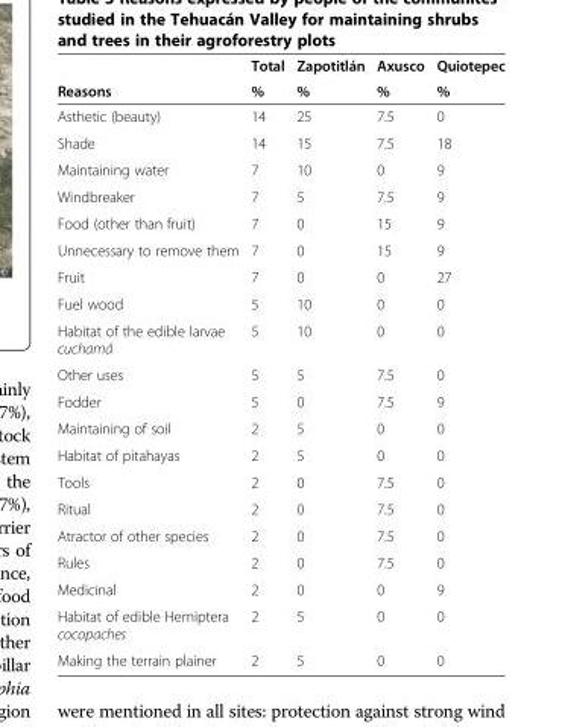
<table><thead><tr><td rowspan="2">Reasons</td><td rowspan="2">Total %</td><td rowspan="2">Zapotitlán %</td><td rowspan="2">Axusco %</td><td rowspan="2">Quiotepec %</td></tr><tr></tr></thead><tbody><tr><td>Asthetic (beauty)</td><td>14</td><td>25</td><td>7.5</td><td>0</td></tr><tr><td>Shade</td><td>14</td><td>15</td><td>7.5</td><td>18</td></tr><tr><td>Maintaining water</td><td>7</td><td>10</td><td>0</td><td>9</td></tr><tr><td>Windbreaker</td><td>7</td><td>5</td><td>7.5</td><td>9</td></tr><tr><td>Food (other than fruit)</td><td>7</td><td>0</td><td>15</td><td>9</td></tr><tr><td>Unnecessary to remove them</td><td>7</td><td>0</td><td>15</td><td>9</td></tr><tr><td>Fruit</td><td>7</td><td>0</td><td>0</td><td>27</td></tr><tr><td>Fuel wood</td><td>5</td><td>10</td><td>0</td><td>0</td></tr><tr><td>Habitat of the edible larvae cuchamá</td><td>5</td><td>10</td><td>0</td><td>0</td></tr><tr><td>Other uses</td><td>5</td><td>5</td><td>7.5</td><td>0</td></tr><tr><td>Fodder</td><td>5</td><td>0</td><td>7.5</td><td>9</td></tr><tr><td>Maintaining of soil</td><td>2</td><td>5</td><td>0</td><td>0</td></tr><tr><td>Habitat of pitahayas</td><td>2</td><td>5</td><td>0</td><td>0</td></tr><tr><td>Tools</td><td>2</td><td>0</td><td>7.5</td><td>0</td></tr><tr><td>Ritual</td><td>2</td><td>0</td><td>7.5</td><td>0</td></tr><tr><td>Atractor of other species</td><td>2</td><td>0</td><td>7.5</td><td>0</td></tr><tr><td>Rules</td><td>2</td><td>0</td><td>7.5</td><td>0</td></tr><tr><td>Medicinal</td><td>2</td><td>0</td><td>0</td><td>9</td></tr><tr><td>Habitat of edible Hemiptera cocopaches</td><td>2</td><td>5</td><td>0</td><td>0</td></tr><tr><td>Making the terrain plainer</td><td>2</td><td>5</td><td>0</td><td>0</td></tr></tbody></table>